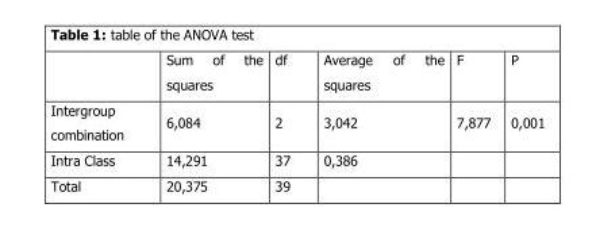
<table><thead><tr><td></td><td>Sum of the squares</td><td>df</td><td>Average of the squares</td><td>F</td><td>P</td></tr></thead><tbody><tr><td>Intergroup combination</td><td>6,084</td><td>2</td><td>3,042</td><td>7,877</td><td>0,001</td></tr><tr><td>Intra Class</td><td>14,291</td><td>37</td><td>0,386</td><td></td><td></td></tr><tr><td>Total</td><td>20,375</td><td>39</td><td></td><td></td><td></td></tr></tbody></table>